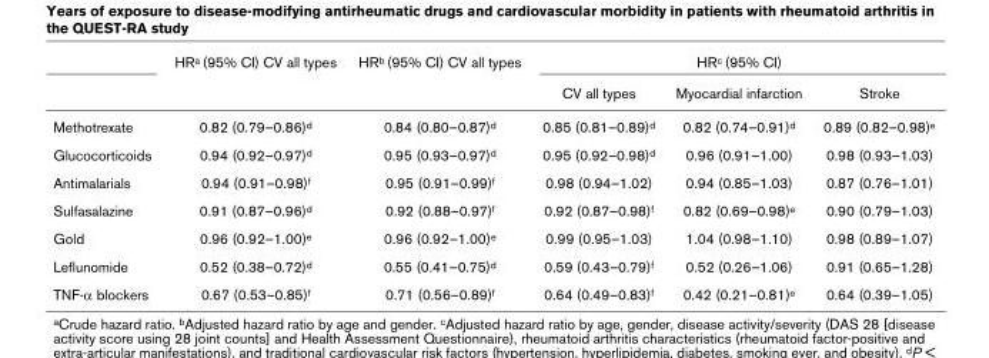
<table><thead><tr><td rowspan="2"></td><td rowspan="2">HR<sup>a</sup> (95% CI) CV all types</td><td rowspan="2">HR<sup>b</sup> (95% CI) CV all types</td><td colspan="3">HR<sup>c</sup> (95% CI)</td></tr><tr><td>CV all types</td><td>Myocardial infarction</td><td>Stroke</td></tr></thead><tbody><tr><td>Methotrexate</td><td>0.82 (0.79–0.86)<sup>d</sup></td><td>0.84 (0.80–0.87)<sup>d</sup></td><td>0.85 (0.81–0.89)<sup>d</sup></td><td>0.82 (0.74–0.91)<sup>d</sup></td><td>0.89 (0.82–0.98)<sup>e</sup></td></tr><tr><td>Glucocorticoids</td><td>0.94 (0.92–0.97)<sup>d</sup></td><td>0.95 (0.93–0.97)<sup>d</sup></td><td>0.95 (0.92–0.98)<sup>d</sup></td><td>0.96 (0.91–1.00)</td><td>0.98 (0.93–1.03)</td></tr><tr><td>Antimalarials</td><td>0.94 (0.91–0.98)<sup>f</sup></td><td>0.95 (0.91–0.99)<sup>f</sup></td><td>0.98 (0.94–1.02)</td><td>0.94 (0.85–1.03)</td><td>0.87 (0.76–1.01)</td></tr><tr><td>Sulfasalazine</td><td>0.91 (0.87–0.96)<sup>d</sup></td><td>0.92 (0.88–0.97)<sup>f</sup></td><td>0.92 (0.87–0.98)<sup>f</sup></td><td>0.82 (0.69–0.98)<sup>e</sup></td><td>0.90 (0.79–1.03)</td></tr><tr><td>Gold</td><td>0.96 (0.92–1.00)<sup>e</sup></td><td>0.96 (0.92–1.00)<sup>e</sup></td><td>0.99 (0.95–1.03)</td><td>1.04 (0.98–1.10)</td><td>0.98 (0.89–1.07)</td></tr><tr><td>Leflunomide</td><td>0.52 (0.38–0.72)<sup>d</sup></td><td>0.55 (0.41–0.75)<sup>d</sup></td><td>0.59 (0.43–0.79)<sup>f</sup></td><td>0.52 (0.26–1.06)</td><td>0.91 (0.65–1.28)</td></tr><tr><td>TNF-α blockers</td><td>0.67 (0.53–0.85)<sup>f</sup></td><td>0.71 (0.56–0.89)<sup>f</sup></td><td>0.64 (0.49–0.83)<sup>f</sup></td><td>0.42 (0.21–0.81)<sup>e</sup></td><td>0.64 (0.39–1.05)</td></tr></tbody></table>